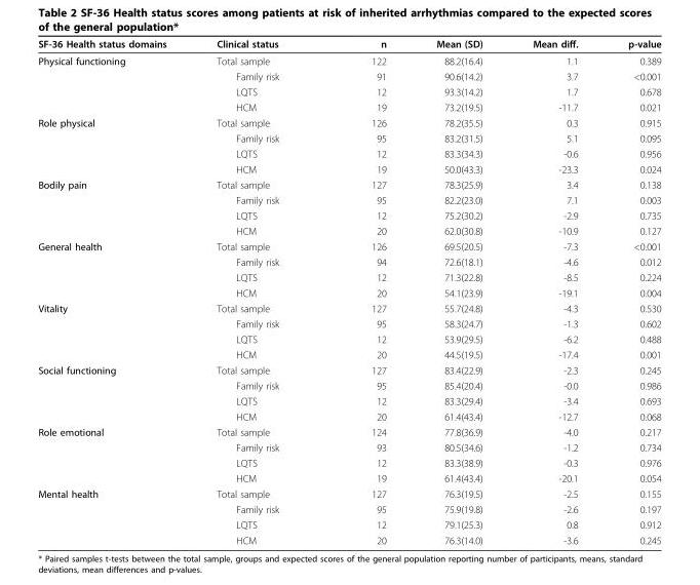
<table><thead><tr><td>SF-36 Health status domains</td><td>Clinical status</td><td>n</td><td>Mean (SD)</td><td>Mean diff.</td><td>p-value</td></tr></thead><tbody><tr><td rowspan="4">Physical functioning</td><td>Total sample</td><td>122</td><td>88.2(16.4)</td><td>1.1</td><td>0.389</td></tr><tr><td>Family risk</td><td>91</td><td>90.6(14.2)</td><td>3.7</td><td>&lt;0.001</td></tr><tr><td>LQTS</td><td>12</td><td>93.3(14.2)</td><td>1.7</td><td>0.678</td></tr><tr><td>HCM</td><td>19</td><td>73.2(19.5)</td><td>-11.7</td><td>0.021</td></tr><tr><td rowspan="4">Role physical</td><td>Total sample</td><td>126</td><td>78.2(35.5)</td><td>0.3</td><td>0.915</td></tr><tr><td>Family risk</td><td>95</td><td>83.2(31.5)</td><td>5.1</td><td>0.095</td></tr><tr><td>LQTS</td><td>12</td><td>83.3(34.3)</td><td>-0.6</td><td>0.956</td></tr><tr><td>HCM</td><td>19</td><td>50.0(43.3)</td><td>-23.3</td><td>0.024</td></tr><tr><td rowspan="4">Bodily pain</td><td>Total sample</td><td>127</td><td>78.3(25.9)</td><td>3.4</td><td>0.138</td></tr><tr><td>Family risk</td><td>95</td><td>82.2(23.0)</td><td>7.1</td><td>0.003</td></tr><tr><td>LQTS</td><td>12</td><td>75.2(30.2)</td><td>-2.9</td><td>0.735</td></tr><tr><td>HCM</td><td>20</td><td>62.0(30.8)</td><td>-10.9</td><td>0.127</td></tr><tr><td rowspan="4">General health</td><td>Total sample</td><td>126</td><td>69.5(20.5)</td><td>-7.3</td><td>&lt;0.001</td></tr><tr><td>Family risk</td><td>94</td><td>72.6(18.1)</td><td>-4.6</td><td>0.012</td></tr><tr><td>LQTS</td><td>12</td><td>71.3(22.8)</td><td>-8.5</td><td>0.224</td></tr><tr><td>HCM</td><td>20</td><td>54.1(23.9)</td><td>-19.1</td><td>0.004</td></tr><tr><td rowspan="4">Vitality</td><td>Total sample</td><td>127</td><td>55.7(24.8)</td><td>-4.3</td><td>0.530</td></tr><tr><td>Family risk</td><td>95</td><td>58.3(24.7)</td><td>-1.3</td><td>0.602</td></tr><tr><td>LQTS</td><td>12</td><td>53.9(29.5)</td><td>-6.2</td><td>0.488</td></tr><tr><td>HCM</td><td>20</td><td>44.5(19.5)</td><td>-17.4</td><td>0.001</td></tr><tr><td rowspan="4">Social functioning</td><td>Total sample</td><td>127</td><td>83.4(22.9)</td><td>-2.3</td><td>0.245</td></tr><tr><td>Family risk</td><td>95</td><td>85.4(20.4)</td><td>-0.0</td><td>0.986</td></tr><tr><td>LQTS</td><td>12</td><td>83.3(29.4)</td><td>-3.4</td><td>0.693</td></tr><tr><td>HCM</td><td>20</td><td>61.4(43.4)</td><td>-12.7</td><td>0.068</td></tr><tr><td rowspan="4">Role emotional</td><td>Total sample</td><td>124</td><td>77.8(36.9)</td><td>-4.0</td><td>0.217</td></tr><tr><td>Family risk</td><td>93</td><td>80.5(34.6)</td><td>-1.2</td><td>0.734</td></tr><tr><td>LQTS</td><td>12</td><td>83.3(38.9)</td><td>-0.3</td><td>0.976</td></tr><tr><td>HCM</td><td>19</td><td>61.4(43.4)</td><td>-20.1</td><td>0.054</td></tr><tr><td rowspan="4">Mental health</td><td>Total sample</td><td>127</td><td>76.3(19.5)</td><td>-2.5</td><td>0.155</td></tr><tr><td>Family risk</td><td>95</td><td>75.9(19.8)</td><td>-2.6</td><td>0.197</td></tr><tr><td>LQTS</td><td>12</td><td>79.1(25.3)</td><td>0.8</td><td>0.912</td></tr><tr><td>HCM</td><td>20</td><td>76.3(14.0)</td><td>-3.6</td><td>0.245</td></tr></tbody></table>